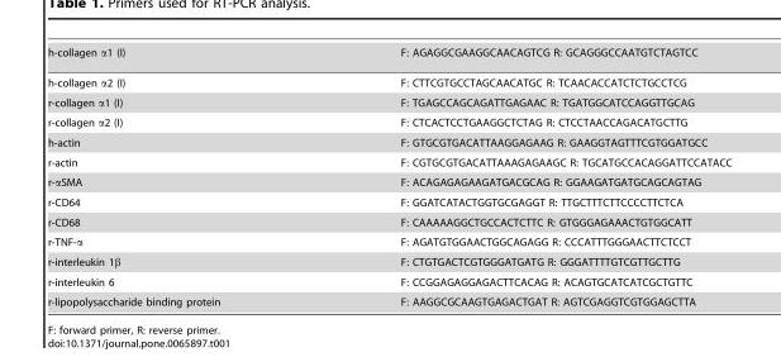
<table><tbody><tr><td>h-collagen α1 (I)</td><td>F: AGAGGCGAAGGCAACAGTCG R: GCAGGGCCAATGTCTAGTCC</td></tr><tr><td>h-collagen α2 (I)</td><td>F: CTTCGTGCCTAGCAACATGC R: TCAACACCATCTCTGCCTCG</td></tr><tr><td>r-collagen α1 (I)</td><td>F: TGAGCCAGCAGATTGAGAAC R: TGATGGCATCCAGGTTGCAG</td></tr><tr><td>r-collagen α2 (I)</td><td>F: CTCACTCCTGAAGGCTCTAG R: CTCCTAACCAGACATGCTTG</td></tr><tr><td>h-actin</td><td>F: GTGCGTGACATTAAGGAGAAG R: GAAGGTAGTTTCGTGGATGCC</td></tr><tr><td>r-actin</td><td>F: CGTGCGTGACATTAAAGAGAAGC R: TGCATGCCACAGGATTCCATACC</td></tr><tr><td>r-αSMA</td><td>F: ACAGAGAGAAGATGACGCAG R: GGAAGATGATGCAGCAGTAG</td></tr><tr><td>r-CD64</td><td>F: GGATCATACTGGTGCGAGGT R: TTGCTTTCTTCCCCTTCTCA</td></tr><tr><td>r-CD68</td><td>F: CAAAAAGGCTGCCACTCTTC R: GTGGGAGAAACTGTGGCATT</td></tr><tr><td>r-TNF-α</td><td>F: AGATGTGGAACTGGCAGAGG R: CCCATTTGGGAACTTCTCCT</td></tr><tr><td>r-interleukin 1β</td><td>F: CTGTGACTCGTGGGATGATG R: GGGATTTTGTCGTTGCTTG</td></tr><tr><td>r-interleukin 6</td><td>F: CCGGAGAGGAGACTTCACAG R: ACAGTGCATCATCGCTGTTC</td></tr><tr><td>r-lipopolysaccharide binding protein</td><td>F: AAGGCGCAAGTGAGACTGAT R: AGTCGAGGTCGTGGAGCTTA</td></tr></tbody></table>